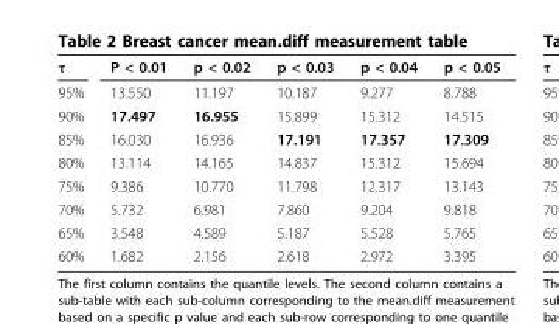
<table><tbody><tr><td>τ</td><td>P &lt; 0.01</td><td>p &lt; 0.02</td><td>p &lt; 0.03</td><td>p &lt; 0.04</td><td>p &lt; 0.05</td></tr><tr><td>95%</td><td>13.550</td><td>11.197</td><td>10.187</td><td>9.277</td><td>8.788</td></tr><tr><td>90%</td><td>17.497</td><td>16.955</td><td>15.899</td><td>15.312</td><td>14.515</td></tr><tr><td>85%</td><td>16.030</td><td>16.936</td><td>17.191</td><td>17.357</td><td>17.309</td></tr><tr><td>80%</td><td>13.114</td><td>14.165</td><td>14.837</td><td>15.312</td><td>15.694</td></tr><tr><td>75%</td><td>9.386</td><td>10.770</td><td>11.798</td><td>12.317</td><td>13.143</td></tr><tr><td>70%</td><td>5.732</td><td>6.981</td><td>7.860</td><td>9.204</td><td>9.818</td></tr><tr><td>65%</td><td>3.548</td><td>4.589</td><td>5.187</td><td>5.528</td><td>5.765</td></tr><tr><td>60%</td><td>1.682</td><td>2.156</td><td>2.618</td><td>2.972</td><td>3.395</td></tr></tbody></table>